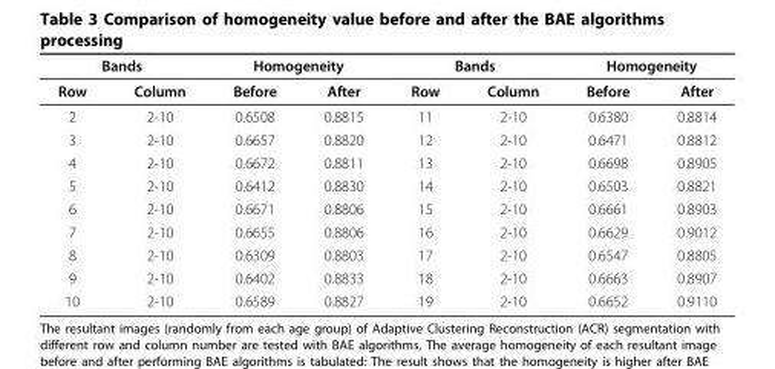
<table><thead><tr><td colspan="2">Bands</td><td colspan="2">Homogeneity</td><td colspan="2">Bands</td><td colspan="2">Homogeneity</td></tr><tr><td>Row</td><td>Column</td><td>Before</td><td>After</td><td>Row</td><td>Column</td><td>Before</td><td>After</td></tr></thead><tbody><tr><td>2</td><td>2-10</td><td>0.6508</td><td>0.8815</td><td>11</td><td>2-10</td><td>0.6380</td><td>0.8814</td></tr><tr><td>3</td><td>2-10</td><td>0.6657</td><td>0.8820</td><td>12</td><td>2-10</td><td>0.6471</td><td>0.8812</td></tr><tr><td>4</td><td>2-10</td><td>0.6672</td><td>0.8811</td><td>13</td><td>2-10</td><td>0.6698</td><td>0.8905</td></tr><tr><td>5</td><td>2-10</td><td>0.6412</td><td>0.8830</td><td>14</td><td>2-10</td><td>0.6503</td><td>0.8821</td></tr><tr><td>6</td><td>2-10</td><td>0.6671</td><td>0.8806</td><td>15</td><td>2-10</td><td>0.6661</td><td>0.8903</td></tr><tr><td>7</td><td>2-10</td><td>0.6655</td><td>0.8806</td><td>16</td><td>2-10</td><td>0.6629</td><td>0.9012</td></tr><tr><td>8</td><td>2-10</td><td>0.6309</td><td>0.8803</td><td>17</td><td>2-10</td><td>0.6547</td><td>0.8805</td></tr><tr><td>9</td><td>2-10</td><td>0.6402</td><td>0.8833</td><td>18</td><td>2-10</td><td>0.6663</td><td>0.8907</td></tr><tr><td>10</td><td>2-10</td><td>0.6589</td><td>0.8827</td><td>19</td><td>2-10</td><td>0.6652</td><td>0.9110</td></tr></tbody></table>